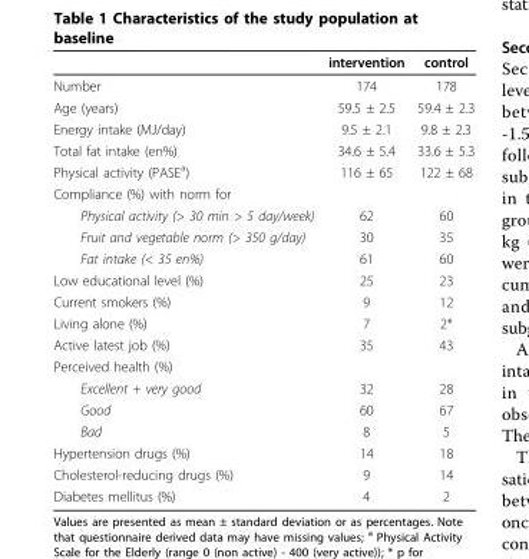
<table><thead><tr><td></td><td>intervention</td><td>control</td></tr></thead><tbody><tr><td>Number</td><td>174</td><td>178</td></tr><tr><td>Age (years)</td><td>59.5 ± 2.5</td><td>59.4 ± 2.3</td></tr><tr><td>Energy intake (MJ/day)</td><td>9.5 ± 2.1</td><td>9.8 ± 2.3</td></tr><tr><td>Total fat intake (en%)</td><td>34.6 ± 5.4</td><td>33.6 ± 5.3</td></tr><tr><td>Physical activity (PASE<sup>a</sup>)</td><td>116 ± 65</td><td>122 ± 68</td></tr><tr><td colspan="3">Compliance (%) with norm for</td></tr><tr><td>Physical activity (&gt; 30 min &gt; 5 day/week)</td><td>62</td><td>60</td></tr><tr><td>Fruit and vegetable norm (&gt; 350 g/day)</td><td>30</td><td>35</td></tr><tr><td>Fat intake (&lt; 35 en%)</td><td>61</td><td>60</td></tr><tr><td>Low educational level (%)</td><td>25</td><td>23</td></tr><tr><td>Current smokers (%)</td><td>9</td><td>12</td></tr><tr><td>Living alone (%)</td><td>7</td><td>2*</td></tr><tr><td>Active latest job (%)</td><td>35</td><td>43</td></tr><tr><td colspan="3">Perceived health (%)</td></tr><tr><td>Excellent + very good</td><td>32</td><td>28</td></tr><tr><td>Good</td><td>60</td><td>67</td></tr><tr><td>Bad</td><td>8</td><td>5</td></tr><tr><td>Hypertension drugs (%)</td><td>14</td><td>18</td></tr><tr><td>Cholesterol-reducing drugs (%)</td><td>9</td><td>14</td></tr><tr><td>Diabetes mellitus (%)</td><td>4</td><td>2</td></tr></tbody></table>